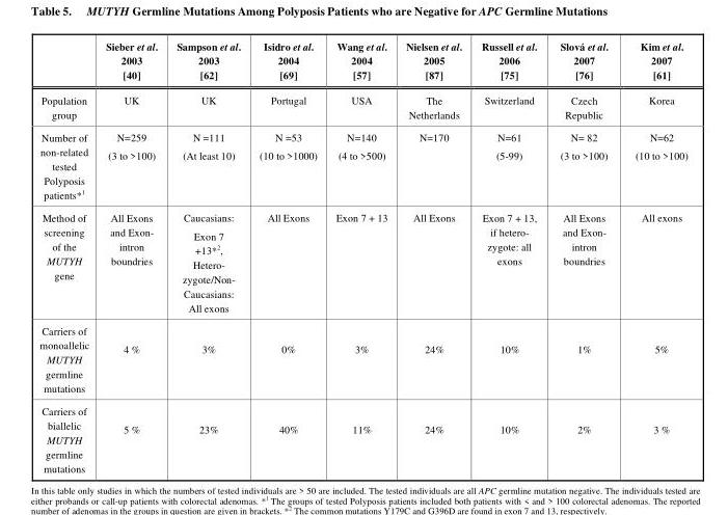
<table><thead><tr><td></td><td>Sieber et al. 2003 [40]</td><td>Sampson et al. 2003 [62]</td><td>Isidro et al. 2004 [69]</td><td>Wang et al. 2004 [57]</td><td>Nielsen et al. 2005 [87]</td><td>Russell et al. 2006 [75]</td><td>Slová et al. 2007 [76]</td><td>Kim et al. 2007 [61]</td></tr></thead><tbody><tr><td>Population group</td><td>UK</td><td>UK</td><td>Portugal</td><td>USA</td><td>The Netherlands</td><td>Switzerland</td><td>Czech Republic</td><td>Korea</td></tr><tr><td>Number of non-related tested Polyposis patients*1</td><td>N=259 (3 to &gt;100)</td><td>N =111 (At least 10)</td><td>N =53 (10 to &gt;1000)</td><td>N=140 (4 to &gt;500)</td><td>N=170</td><td>N=61 (5-99)</td><td>N= 82 (3 to &gt;100)</td><td>N=62 (10 to &gt;100)</td></tr><tr><td>Method of screening of the MUTYH gene</td><td>All Exons and Exon- intron boundries</td><td>Caucasians: Exon 7 +13*2, Hetero- zygote/Non- Caucasians: All exons</td><td>All Exons</td><td>Exon 7 + 13</td><td>All Exons</td><td>Exon 7 + 13, if hetero- zygote: all exons</td><td>All Exons and Exon- intron boundries</td><td>All exons</td></tr><tr><td>Carriers of monoallelic MUTYH germline mutations</td><td>4 %</td><td>3%</td><td>0%</td><td>3%</td><td>24%</td><td>10%</td><td>1%</td><td>5%</td></tr><tr><td>Carriers of biallelic MUTYH germline mutations</td><td>5 %</td><td>23%</td><td>40%</td><td>11%</td><td>24%</td><td>10%</td><td>2%</td><td>3 %</td></tr></tbody></table>